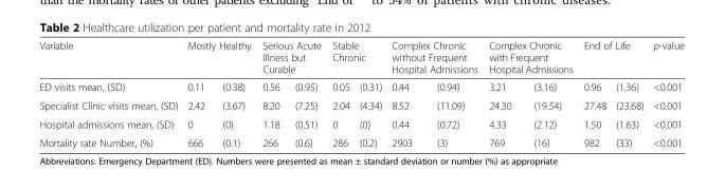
<table><thead><tr><td rowspan="2">Variable ED visits mean, (SD)</td><td colspan="2">Mostly Healthy</td><td colspan="2">Serious Acute Illness but Curable</td><td colspan="2">Stable Chronic</td><td colspan="2">Complex Chronic without Frequent Hospital Admissions</td><td colspan="2">Complex Chronic with Frequent Hospital Admissions</td><td colspan="2">End of Life</td><td rowspan="2">p-value &lt;0.001</td></tr><tr><td>0.11</td><td>(0.38)</td><td>0.56</td><td>(0.95)</td><td>0.05</td><td>(0.31)</td><td>0.44</td><td>(0.94)</td><td>3.21</td><td>(3.16)</td><td>0.96</td><td>(1.36)</td></tr></thead><tbody><tr><td>Specialist Clinic visits mean, (SD)</td><td>2.42</td><td>(3.67)</td><td>8.20</td><td>(7.25)</td><td>2.04</td><td>(4.34)</td><td>8.52</td><td>(11.09)</td><td>24.30</td><td>(19.54)</td><td>27.48</td><td>(23.68)</td><td>&lt;0.001</td></tr><tr><td>Hospital admissions mean, (SD)</td><td>0</td><td>(0)</td><td>1.18</td><td>(0.51)</td><td>0</td><td>(0)</td><td>0.44</td><td>(0.72)</td><td>4.33</td><td>(2.12)</td><td>1.50</td><td>(1.63)</td><td>&lt;0.001</td></tr><tr><td>Mortality rate Number, (%)</td><td>666</td><td>(0.1)</td><td>266</td><td>(0.6)</td><td>286</td><td>(0.2)</td><td>2903</td><td>(3)</td><td>769</td><td>(16)</td><td>982</td><td>(33)</td><td>&lt;0.001</td></tr></tbody></table>